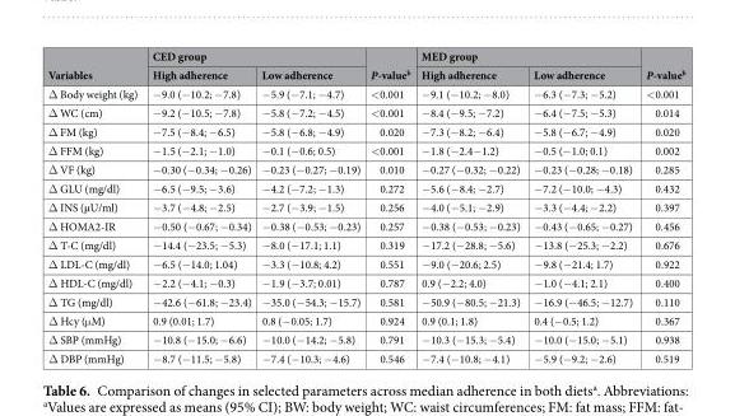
<table><thead><tr><td rowspan="2">Variables</td><td colspan="2">CED group</td><td rowspan="2">P-value<sup>b</sup></td><td colspan="2">MED group</td><td rowspan="2">P-value<sup>b</sup></td></tr><tr><td>High adherence</td><td>Low adherence</td><td>High adherence</td><td>Low adherence</td></tr></thead><tbody><tr><td>Δ Body weight (kg)</td><td>−9.0 (−10.2; −7.8)</td><td>−5.9 (−7.1; −4.7)</td><td>&lt;0.001</td><td>−9.1 (−10.2; −8.0)</td><td>−6.3 (−7.3; −5.2)</td><td>&lt;0.001</td></tr><tr><td>Δ WC (cm)</td><td>−9.2 (−10.5; −7.8)</td><td>−5.8 (−7.2; −4.5)</td><td>&lt;0.001</td><td>−8.4 (−9.5; −7.2)</td><td>−6.4 (−7.5; −5.3)</td><td>0.014</td></tr><tr><td>Δ FM (kg)</td><td>−7.5 (−8.4; −6.5)</td><td>−5.8 (−6.8; −4.9)</td><td>0.020</td><td>−7.3 (−8.2; −6.4)</td><td>−5.8 (−6.7; −4.9)</td><td>0.020</td></tr><tr><td>Δ FFM (kg)</td><td>−1.5 (−2.1; −1.0)</td><td>−0.1 (−0.6; 0.5)</td><td>&lt;0.001</td><td>−1.8 (−2.4−1.2)</td><td>−0.5 (−1.0; 0.1)</td><td>0.002</td></tr><tr><td>Δ VF (kg)</td><td>−0.30 (−0.34; −0.26)</td><td>−0.23 (−0.27; −0.19)</td><td>0.010</td><td>−0.27 (−0.32; −0.22)</td><td>−0.23 (−0.28; −0.18)</td><td>0.285</td></tr><tr><td>Δ GLU (mg/dl)</td><td>−6.5 (−9.5; −3.6)</td><td>−4.2 (−7.2; −1.3)</td><td>0.272</td><td>−5.6 (−8.4; −2.7)</td><td>−7.2 (−10.0; −4.3)</td><td>0.432</td></tr><tr><td>Δ INS (µU/ml)</td><td>−3.7 (−4.8; −2.5)</td><td>−2.7 (−3.9; −1.5)</td><td>0.256</td><td>−4.0 (−5.1; −2.9)</td><td>−3.3 (−4.4; −2.2)</td><td>0.397</td></tr><tr><td>Δ HOMA2-IR</td><td>−0.50 (−0.67; −0.34)</td><td>−0.38 (−0.53; −0.23)</td><td>0.257</td><td>−0.38 (−0.53; −0.23)</td><td>−0.43 (−0.65; −0.27)</td><td>0.456</td></tr><tr><td>Δ T-C (mg/dl)</td><td>−14.4 (−23.5; −5.3)</td><td>−8.0 (−17.1; 1.1)</td><td>0.319</td><td>−17.2 (−28.8; −5.6)</td><td>−13.8 (−25.3; −2.2)</td><td>0.676</td></tr><tr><td>Δ LDL-C (mg/dl)</td><td>−6.5 (−14.0; 1.04)</td><td>−3.3 (−10.8; 4.2)</td><td>0.551</td><td>−9.0 (−20.6; 2.5)</td><td>−9.8 (−21.4; 1.7)</td><td>0.922</td></tr><tr><td>Δ HDL-C (mg/dl)</td><td>−2.2 (−4.1; −0.3)</td><td>−1.9 (−3.7; 0.01)</td><td>0.787</td><td>0.9 (−2.2; 4.0)</td><td>−1.0 (−4.1; 2.1)</td><td>0.400</td></tr><tr><td>Δ TG (mg/dl)</td><td>−42.6 (−61.8; −23.4)</td><td>−35.0 (−54.3; −15.7)</td><td>0.581</td><td>−50.9 (−80.5; −21.3)</td><td>−16.9 (−46.5; −12.7)</td><td>0.110</td></tr><tr><td>Δ Hcy (μM)</td><td>0.9 (0.01; 1.7)</td><td>0.8 (−0.05; 1.7)</td><td>0.924</td><td>0.9 (0.1; 1.8)</td><td>0.4 (−0.5; 1.2)</td><td>0.367</td></tr><tr><td>Δ SBP (mmHg)</td><td>−10.8 (−15.0; −6.6)</td><td>−10.0 (−14.2; −5.8)</td><td>0.791</td><td>−10.3 (−15.3; −5.4)</td><td>−10.0 (−15.0; −5.1)</td><td>0.938</td></tr><tr><td>Δ DBP (mmHg)</td><td>−8.7 (−11.5; −5.8)</td><td>−7.4 (−10.3; −4.6)</td><td>0.546</td><td>−7.4 (−10.8; −4.1)</td><td>−5.9 (−9.2; −2.6)</td><td>0.519</td></tr></tbody></table>